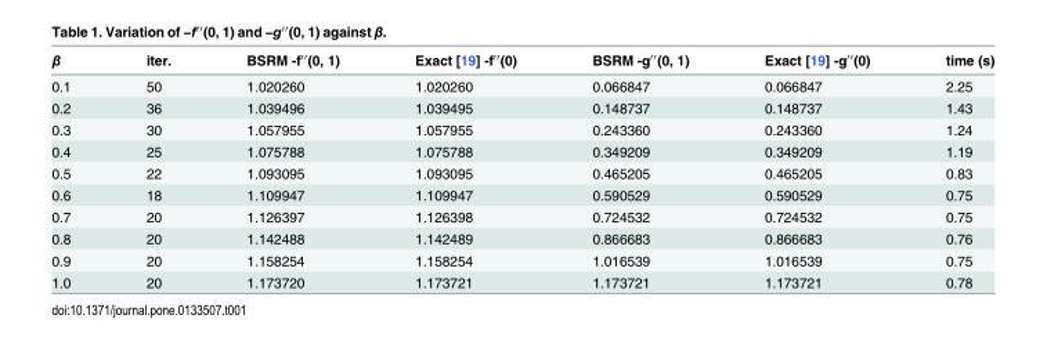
<table><thead><tr><td>β</td><td>iter.</td><td>BSRM -f′′(0, 1)</td><td>Exact [19] -f′′(0)</td><td>BSRM -g′′(0, 1)</td><td>Exact [19] -g′′(0)</td><td>time (s)</td></tr></thead><tbody><tr><td>0.1</td><td>50</td><td>1.020260</td><td>1.020260</td><td>0.066847</td><td>0.066847</td><td>2.25</td></tr><tr><td>0.2</td><td>36</td><td>1.039496</td><td>1.039495</td><td>0.148737</td><td>0.148737</td><td>1.43</td></tr><tr><td>0.3</td><td>30</td><td>1.057955</td><td>1.057955</td><td>0.243360</td><td>0.243360</td><td>1.24</td></tr><tr><td>0.4</td><td>25</td><td>1.075788</td><td>1.075788</td><td>0.349209</td><td>0.349209</td><td>1.19</td></tr><tr><td>0.5</td><td>22</td><td>1.093095</td><td>1.093095</td><td>0.465205</td><td>0.465205</td><td>0.83</td></tr><tr><td>0.6</td><td>18</td><td>1.109947</td><td>1.109947</td><td>0.590529</td><td>0.590529</td><td>0.75</td></tr><tr><td>0.7</td><td>20</td><td>1.126397</td><td>1.126398</td><td>0.724532</td><td>0.724532</td><td>0.75</td></tr><tr><td>0.8</td><td>20</td><td>1.142488</td><td>1.142489</td><td>0.866683</td><td>0.866683</td><td>0.76</td></tr><tr><td>0.9</td><td>20</td><td>1.158254</td><td>1.158254</td><td>1.016539</td><td>1.016539</td><td>0.75</td></tr><tr><td>1.0</td><td>20</td><td>1.173720</td><td>1.173721</td><td>1.173721</td><td>1.173721</td><td>0.78</td></tr></tbody></table>